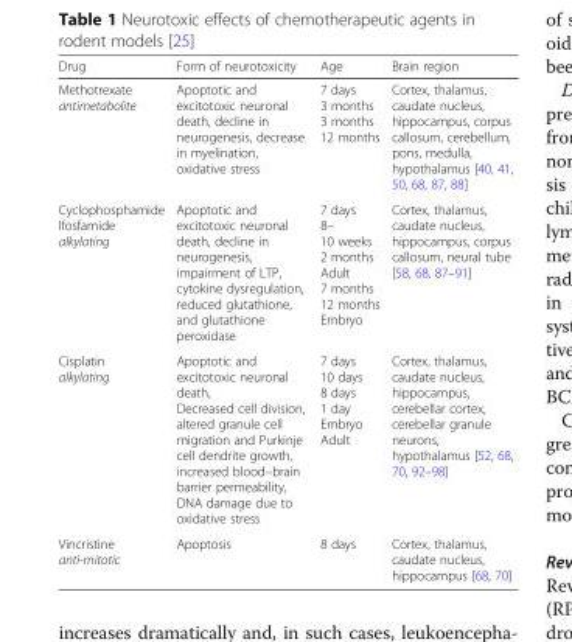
<table><thead><tr><td>Drug</td><td>Form of neurotoxicity</td><td>Age</td><td>Brain region</td></tr></thead><tbody><tr><td>Methotrexate antimetabolite</td><td>Apoptotic and excitotoxic neuronal death, decline in neurogenesis, decrease in myelination, oxidative stress</td><td>7 days 3 months 3 months 12 months</td><td>Cortex, thalamus, caudate nucleus, hippocampus, corpus callosum, cerebellum, pons, medulla, hypothalamus [40, 41, 50, 68, 87, 88]</td></tr><tr><td>Cyclophosphamide Ifosfamide alkylating</td><td>Apoptotic and excitotoxic neuronal death, decline in neurogenesis, impairment of LTP, cytokine dysregulation, reduced glutathione, and glutathione peroxidase</td><td>7 days 8– 10 weeks 2 months Adult 7 months 12 months Embryo</td><td>Cortex, thalamus, caudate nucleus, hippocampus, corpus callosum, neural tube [58, 68, 87–91]</td></tr><tr><td>Cisplatin alkylating</td><td>Apoptotic and excitotoxic neuronal death, Decreased cell division, altered granule cell migration and Purkinje cell dendrite growth, increased blood–brain barrier permeability, DNA damage due to oxidative stress</td><td>7 days 10 days 8 days 1 day Embryo Adult</td><td>Cortex, thalamus, caudate nucleus, hippocampus, cerebellar cortex, cerebellar granule neurons, hypothalamus [52, 68, 70, 92–98]</td></tr><tr><td>Vincristine anti-mitotic</td><td>Apoptosis</td><td>8 days</td><td>Cortex, thalamus, caudate nucleus, hippocampus [68, 70]</td></tr></tbody></table>